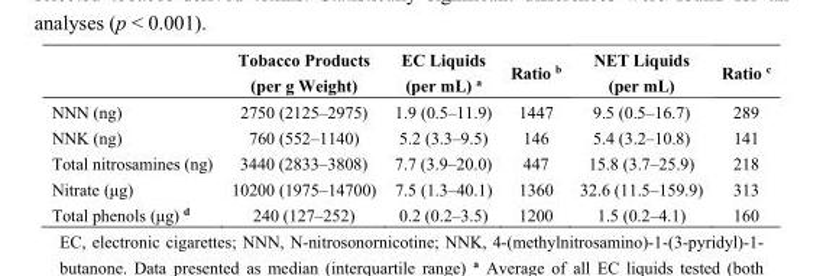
<table><thead><tr><td></td><td>Tobacco Products (per g Weight)</td><td>EC Liquids (per mL) <sup>a</sup></td><td>Ratio <sup>b</sup></td><td>NET Liquids (per mL)</td><td>Ratio <sup>c</sup></td></tr></thead><tbody><tr><td>NNN (ng)</td><td>2750 (2125–2975)</td><td>1.9 (0.5–11.9)</td><td>1447</td><td>9.5 (0.5–16.7)</td><td>289</td></tr><tr><td>NNK (ng)</td><td>760 (552–1140)</td><td>5.2 (3.3–9.5)</td><td>146</td><td>5.4 (3.2–10.8)</td><td>141</td></tr><tr><td>Total nitrosamines (ng)</td><td>3440 (2833–3808)</td><td>7.7 (3.9–20.0)</td><td>447</td><td>15.8 (3.7–25.9)</td><td>218</td></tr><tr><td>Nitrate (μg)</td><td>10200 (1975–14700)</td><td>7.5 (1.3–40.1)</td><td>1360</td><td>32.6 (11.5–159.9)</td><td>313</td></tr><tr><td>Total phenols (μg) <sup>d</sup></td><td>240 (127–252)</td><td>0.2 (0.2–3.5)</td><td>1200</td><td>1.5 (0.2–4.1)</td><td>160</td></tr></tbody></table>